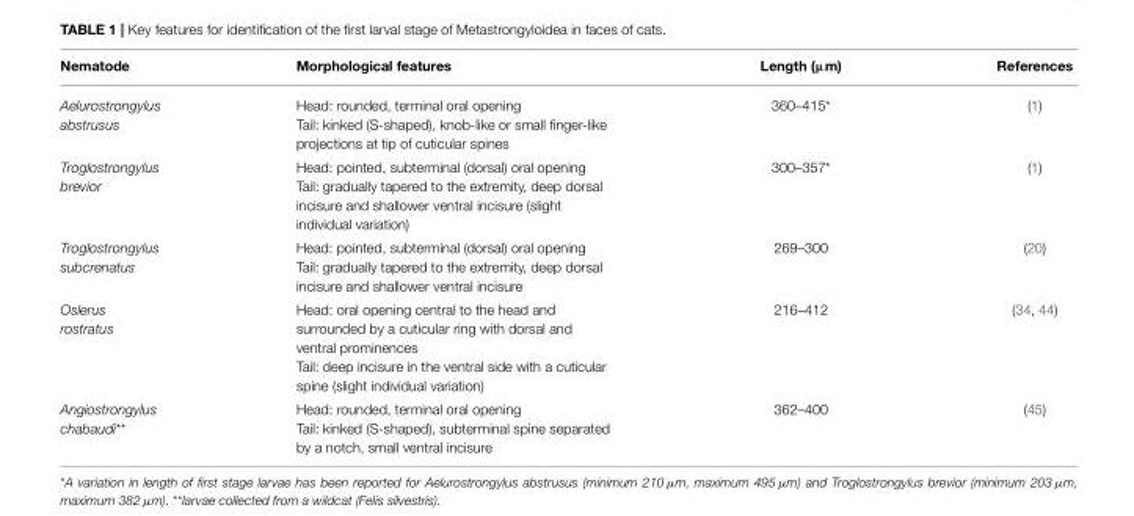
<table><thead><tr><td>Nematode</td><td>Morphological features</td><td>Length (µm)</td><td>References</td></tr></thead><tbody><tr><td>Aelurostrongylus abstrusus</td><td>Head: rounded, terminal oral opening Tail: kinked (S-shaped), knob-like or small finger-like projections at tip of cuticular spines</td><td>360–415*</td><td>(1)</td></tr><tr><td>Troglostrongylus brevior</td><td>Head: pointed, subterminal (dorsal) oral opening Tail: gradually tapered to the extremity, deep dorsal incisure and shallower ventral incisure (slight individual variation)</td><td>300–357*</td><td>(1)</td></tr><tr><td>Troglostrongylus subcrenatus</td><td>Head: pointed, subterminal (dorsal) oral opening Tail: gradually tapered to the extremity, deep dorsal incisure and shallower ventral incisure</td><td>269–300</td><td>(20)</td></tr><tr><td>Oslerus rostratus</td><td>Head: oral opening central to the head and surrounded by a cuticular ring with dorsal and ventral prominences Tail: deep incisure in the ventral side with a cuticular spine (slight individual variation)</td><td>216–412</td><td>(34, 44)</td></tr><tr><td>Angiostrongylus chabaudi**</td><td>Head: rounded, terminal oral opening Tail: kinked (S-shaped), subterminal spine separated by a notch, small ventral incisure</td><td>362–400</td><td>(45)</td></tr></tbody></table>